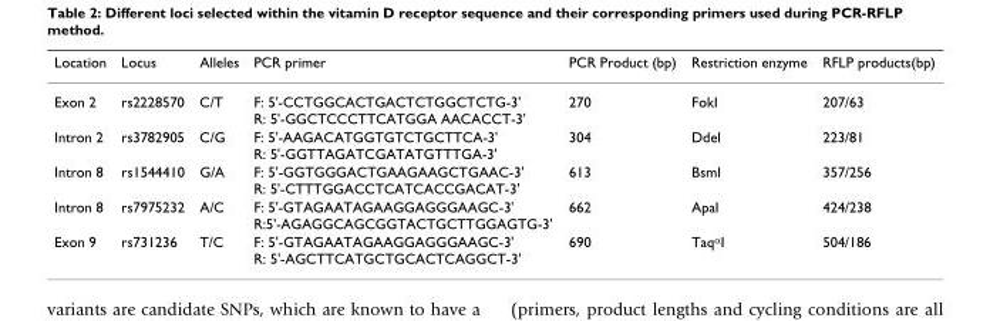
<table><thead><tr><td>Location</td><td>Locus</td><td>Alleles</td><td>PCR primer</td><td>PCR Product (bp)</td><td>Restriction enzyme</td><td>RFLP products(bp)</td></tr></thead><tbody><tr><td>Exon 2</td><td>rs2228570</td><td>C/T</td><td>F: 5&#x27;-CCTGGCACTGACTCTGGCTCTG-3&#x27; R: 5&#x27;-GGCTCCCTTCATGGA AACACCT-3&#x27;</td><td>270</td><td>FokI</td><td>207/63</td></tr><tr><td>Intron 2</td><td>rs3782905</td><td>C/G</td><td>F: 5&#x27;-AAGACATGGTGTCTGCTTCA-3&#x27; R: 5&#x27;-GGTTAGATCGATATGTTTGA-3&#x27;</td><td>304</td><td>DdeI</td><td>223/81</td></tr><tr><td>Intron 8</td><td>rs1544410</td><td>G/A</td><td>F: 5&#x27;-GGTGGGACTGAAGAAGCTGAAC-3&#x27; R: 5&#x27;-CTTTGGACCTCATCACCGACAT-3&#x27;</td><td>613</td><td>BsmI</td><td>357/256</td></tr><tr><td>Intron 8</td><td>rs7975232</td><td>A/C</td><td>F: 5&#x27;-GTAGAATAGAAGGAGGGAAGC-3&#x27; R:5&#x27;-AGAGGCAGCGGTACTGCTTGGAGTG-3&#x27;</td><td>662</td><td>ApaI</td><td>424/238</td></tr><tr><td>Exon 9</td><td>rs731236</td><td>T/C</td><td>F: 5&#x27;-GTAGAATAGAAGGAGGGAAGC-3&#x27; R: 5&#x27;-AGCTTCATGCTGCACTCAGGCT-3&#x27;</td><td>690</td><td>Taq<sup>α</sup>I</td><td>504/186</td></tr></tbody></table>